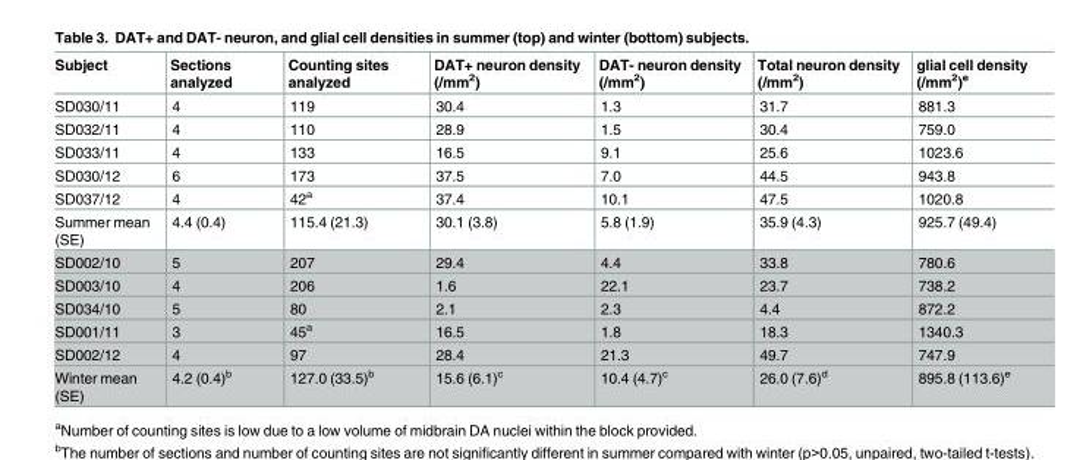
<table><thead><tr><td>Subject</td><td>Sections analyzed</td><td>Counting sites analyzed</td><td>DAT+ neuron density (/mm<sup>2</sup>)</td><td>DAT- neuron density (/mm<sup>2</sup>)</td><td>Total neuron density (/mm<sup>2</sup>)</td><td>glial cell density (/mm<sup>2</sup>)<sup>e</sup></td></tr></thead><tbody><tr><td>SD030/11</td><td>4</td><td>119</td><td>30.4</td><td>1.3</td><td>31.7</td><td>881.3</td></tr><tr><td>SD032/11</td><td>4</td><td>110</td><td>28.9</td><td>1.5</td><td>30.4</td><td>759.0</td></tr><tr><td>SD033/11</td><td>4</td><td>133</td><td>16.5</td><td>9.1</td><td>25.6</td><td>1023.6</td></tr><tr><td>SD030/12</td><td>6</td><td>173</td><td>37.5</td><td>7.0</td><td>44.5</td><td>943.8</td></tr><tr><td>SD037/12</td><td>4</td><td>42<sup>a</sup></td><td>37.4</td><td>10.1</td><td>47.5</td><td>1020.8</td></tr><tr><td>Summer mean (SE)</td><td>4.4 (0.4)</td><td>115.4 (21.3)</td><td>30.1 (3.8)</td><td>5.8 (1.9)</td><td>35.9 (4.3)</td><td>925.7 (49.4)</td></tr><tr><td>SD002/10</td><td>5</td><td>207</td><td>29.4</td><td>4.4</td><td>33.8</td><td>780.6</td></tr><tr><td>SD003/10</td><td>4</td><td>206</td><td>1.6</td><td>22.1</td><td>23.7</td><td>738.2</td></tr><tr><td>SD034/10</td><td>5</td><td>80</td><td>2.1</td><td>2.3</td><td>4.4</td><td>872.2</td></tr><tr><td>SD001/11</td><td>3</td><td>45<sup>a</sup></td><td>16.5</td><td>1.8</td><td>18.3</td><td>1340.3</td></tr><tr><td>SD002/12</td><td>4</td><td>97</td><td>28.4</td><td>21.3</td><td>49.7</td><td>747.9</td></tr><tr><td>Winter mean (SE)</td><td>4.2 (0.4)<sup>b</sup></td><td>127.0 (33.5)<sup>b</sup></td><td>15.6 (6.1)<sup>c</sup></td><td>10.4 (4.7)<sup>c</sup></td><td>26.0 (7.6)<sup>d</sup></td><td>895.8 (113.6)<sup>e</sup></td></tr></tbody></table>